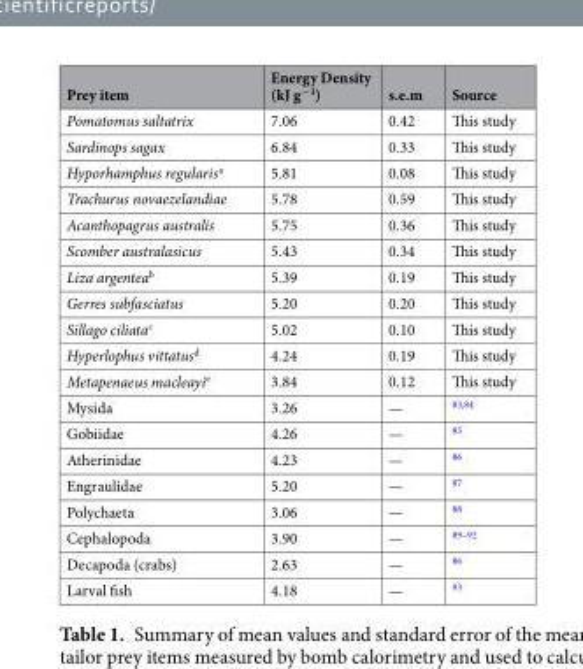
<table><thead><tr><td>Prey item</td><td>Energy Density (kJ g<sup>−1</sup>)</td><td>s.e.m</td><td>Source</td></tr></thead><tbody><tr><td>Pomatomus saltatrix</td><td>7.06</td><td>0.42</td><td>This study</td></tr><tr><td>Sardinops sagax</td><td>6.84</td><td>0.33</td><td>This study</td></tr><tr><td>Hyporhamphus regularis<sup>a</sup></td><td>5.81</td><td>0.08</td><td>This study</td></tr><tr><td>Trachurus novaezelandiae</td><td>5.78</td><td>0.59</td><td>This study</td></tr><tr><td>Acanthopagrus australis</td><td>5.75</td><td>0.36</td><td>This study</td></tr><tr><td>Scomber australasicus</td><td>5.43</td><td>0.34</td><td>This study</td></tr><tr><td>Liza argentea<sup>b</sup></td><td>5.39</td><td>0.19</td><td>This study</td></tr><tr><td>Gerres subfasciatus</td><td>5.20</td><td>0.20</td><td>This study</td></tr><tr><td>Sillago ciliata<sup>c</sup></td><td>5.02</td><td>0.10</td><td>This study</td></tr><tr><td>Hyperlophus vittatus<sup>d</sup></td><td>4.24</td><td>0.19</td><td>This study</td></tr><tr><td>Metapenaeus macleayi<sup>e</sup></td><td>3.84</td><td>0.12</td><td>This study</td></tr><tr><td>Mysida</td><td>3.26</td><td>—</td><td><sup>83,84</sup></td></tr><tr><td>Gobiidae</td><td>4.26</td><td>—</td><td><sup>85</sup></td></tr><tr><td>Atherinidae</td><td>4.23</td><td>—</td><td><sup>86</sup></td></tr><tr><td>Engraulidae</td><td>5.20</td><td>—</td><td><sup>87</sup></td></tr><tr><td>Polychaeta</td><td>3.06</td><td>—</td><td><sup>88</sup></td></tr><tr><td>Cephalopoda</td><td>3.90</td><td>—</td><td><sup>89–92</sup></td></tr><tr><td>Decapoda (crabs)</td><td>2.63</td><td>—</td><td><sup>86</sup></td></tr><tr><td>Larval fish</td><td>4.18</td><td>—</td><td><sup>93</sup></td></tr></tbody></table>